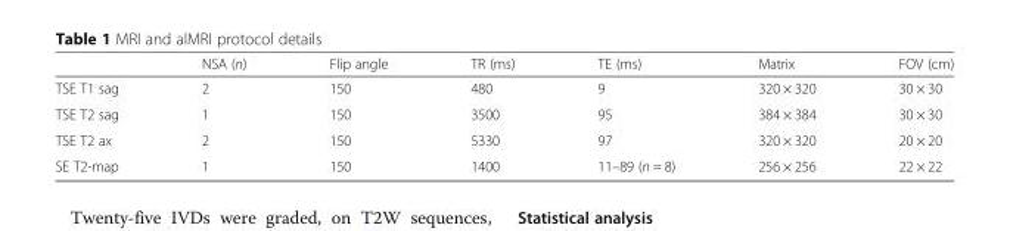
<table><thead><tr><td></td><td>NSA (n)</td><td>Flip angle</td><td>TR (ms)</td><td>TE (ms)</td><td>Matrix</td><td>FOV (cm)</td></tr></thead><tbody><tr><td>TSE T1 sag</td><td>2</td><td>150</td><td>480</td><td>9</td><td>320 × 320</td><td>30 × 30</td></tr><tr><td>TSE T2 sag</td><td>1</td><td>150</td><td>3500</td><td>95</td><td>384 × 384</td><td>30 × 30</td></tr><tr><td>TSE T2 ax</td><td>2</td><td>150</td><td>5330</td><td>97</td><td>320 × 320</td><td>20 × 20</td></tr><tr><td>SE T2-map</td><td>1</td><td>150</td><td>1400</td><td>11–89 (n = 8)</td><td>256 × 256</td><td>22 × 22</td></tr></tbody></table>